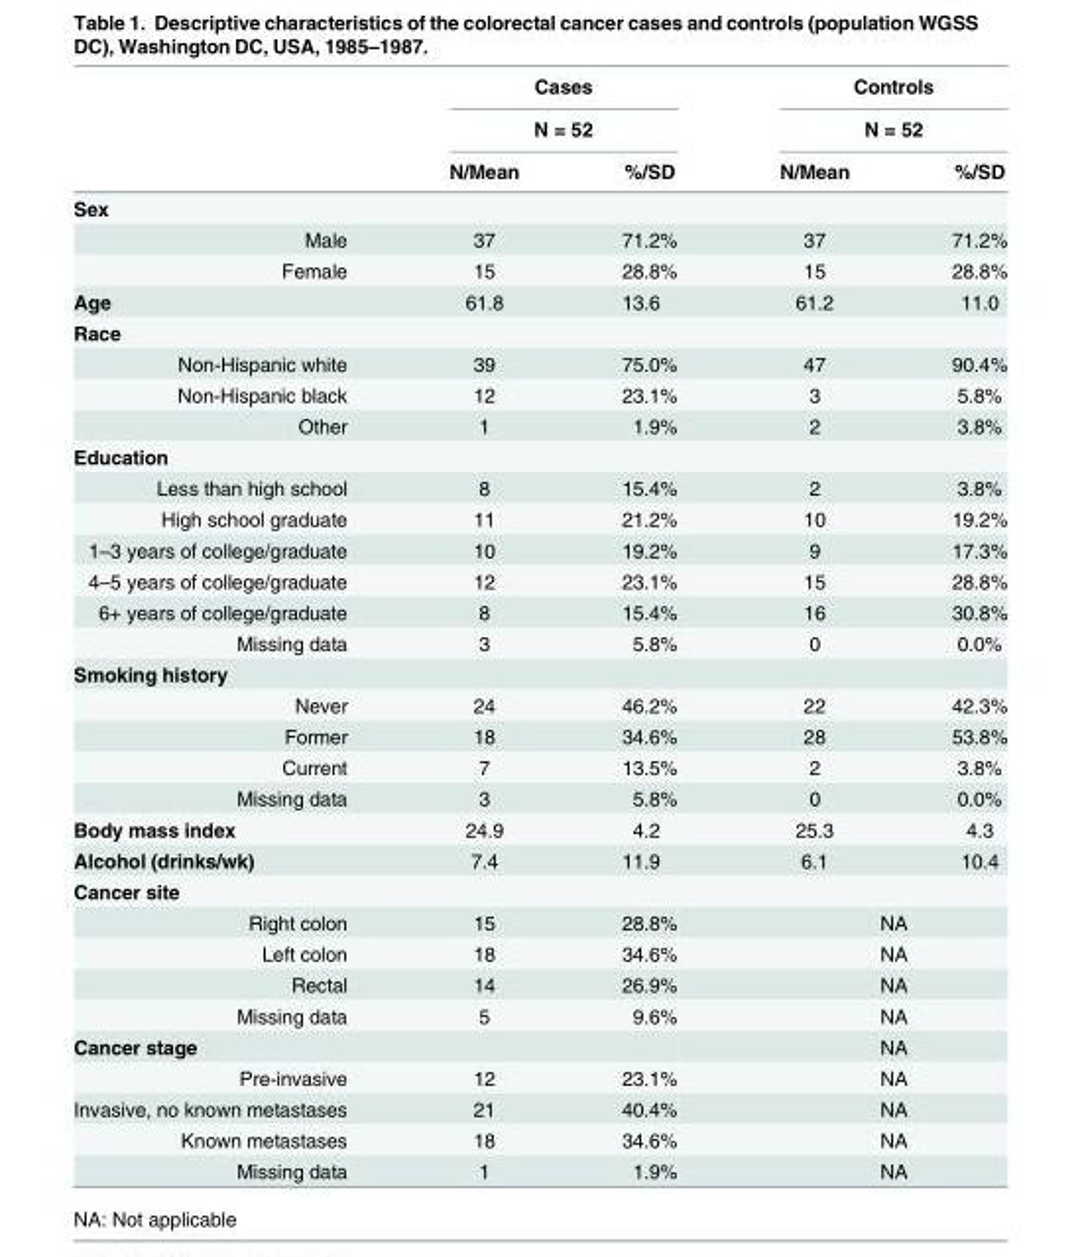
<table><thead><tr><td rowspan="3"></td><td rowspan="2" colspan="2">Cases N = 52</td><td rowspan="2" colspan="2">Controls N = 52</td></tr><tr></tr><tr><td>N/Mean</td><td>%/SD</td><td>N/Mean</td><td>%/SD</td></tr></thead><tbody><tr><td colspan="5">Sex</td></tr><tr><td>Male</td><td>37</td><td>71.2%</td><td>37</td><td>71.2%</td></tr><tr><td>Female</td><td>15</td><td>28.8%</td><td>15</td><td>28.8%</td></tr><tr><td>Age</td><td>61.8</td><td>13.6</td><td>61.2</td><td>11.0</td></tr><tr><td colspan="5">Race</td></tr><tr><td>Non-Hispanic white</td><td>39</td><td>75.0%</td><td>47</td><td>90.4%</td></tr><tr><td>Non-Hispanic black</td><td>12</td><td>23.1%</td><td>3</td><td>5.8%</td></tr><tr><td>Other</td><td>1</td><td>1.9%</td><td>2</td><td>3.8%</td></tr><tr><td colspan="5">Education</td></tr><tr><td>Less than high school</td><td>8</td><td>15.4%</td><td>2</td><td>3.8%</td></tr><tr><td>High school graduate</td><td>11</td><td>21.2%</td><td>10</td><td>19.2%</td></tr><tr><td>1–3 years of college/graduate</td><td>10</td><td>19.2%</td><td>9</td><td>17.3%</td></tr><tr><td>4–5 years of college/graduate</td><td>12</td><td>23.1%</td><td>15</td><td>28.8%</td></tr><tr><td>6+ years of college/graduate</td><td>8</td><td>15.4%</td><td>16</td><td>30.8%</td></tr><tr><td>Missing data</td><td>3</td><td>5.8%</td><td>0</td><td>0.0%</td></tr><tr><td colspan="5">Smoking history</td></tr><tr><td>Never</td><td>24</td><td>46.2%</td><td>22</td><td>42.3%</td></tr><tr><td>Former</td><td>18</td><td>34.6%</td><td>28</td><td>53.8%</td></tr><tr><td>Current</td><td>7</td><td>13.5%</td><td>2</td><td>3.8%</td></tr><tr><td>Missing data</td><td>3</td><td>5.8%</td><td>0</td><td>0.0%</td></tr><tr><td>Body mass index</td><td>24.9</td><td>4.2</td><td>25.3</td><td>4.3</td></tr><tr><td>Alcohol (drinks/wk)</td><td>7.4</td><td>11.9</td><td>6.1</td><td>10.4</td></tr><tr><td colspan="5">Cancer site</td></tr><tr><td>Right colon</td><td>15</td><td>28.8%</td><td colspan="2">NA</td></tr><tr><td>Left colon</td><td>18</td><td>34.6%</td><td colspan="2">NA</td></tr><tr><td>Rectal</td><td>14</td><td>26.9%</td><td colspan="2">NA</td></tr><tr><td>Missing data</td><td>5</td><td>9.6%</td><td colspan="2">NA</td></tr><tr><td>Cancer stage</td><td></td><td></td><td colspan="2">NA</td></tr><tr><td>Pre-invasive</td><td>12</td><td>23.1%</td><td colspan="2">NA</td></tr><tr><td>Invasive, no known metastases</td><td>21</td><td>40.4%</td><td colspan="2">NA</td></tr><tr><td>Known metastases</td><td>18</td><td>34.6%</td><td colspan="2">NA</td></tr><tr><td>Missing data</td><td>1</td><td>1.9%</td><td colspan="2">NA</td></tr></tbody></table>